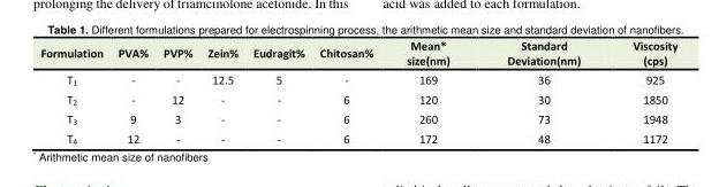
<table><tbody><tr><td>Formulation</td><td>PVA%</td><td>PVP%</td><td>Zein%</td><td>Eudragit%</td><td>Chitosan%</td><td>Mean* size(nm)</td><td>Standard Deviation(nm)</td><td>Viscosity (cps)</td></tr><tr><td>T<sub>1</sub></td><td>-</td><td>-</td><td>12.5</td><td>5</td><td>-</td><td>169</td><td>36</td><td>925</td></tr><tr><td>T<sub>2</sub></td><td>-</td><td>12</td><td>-</td><td>-</td><td>6</td><td>120</td><td>30</td><td>1850</td></tr><tr><td>T<sub>3</sub></td><td>9</td><td>3</td><td>-</td><td>-</td><td>6</td><td>260</td><td>73</td><td>1948</td></tr><tr><td>T<sub>4</sub></td><td>12</td><td>-</td><td>-</td><td>-</td><td>6</td><td>172</td><td>48</td><td>1172</td></tr></tbody></table>